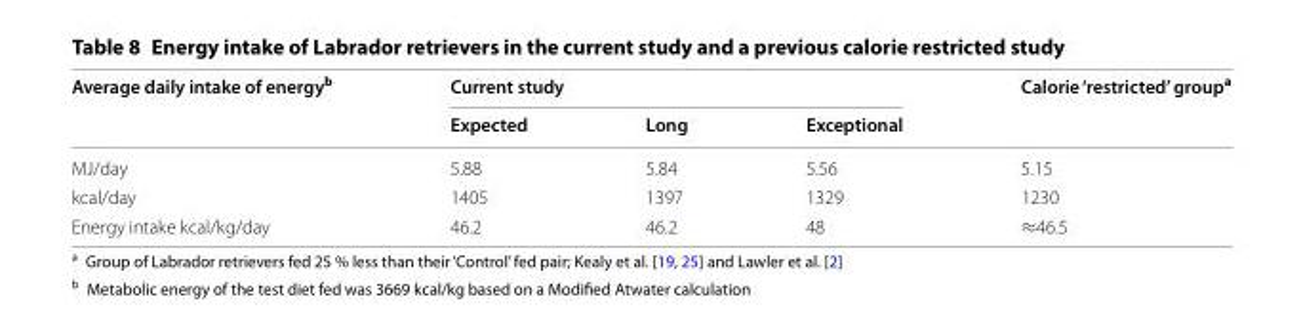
<table><thead><tr><td rowspan="2">Average daily intake of energy<sup>b</sup></td><td colspan="3">Current study</td><td rowspan="2">Calorie ‘restricted’ group<sup>a</sup></td></tr><tr><td>Expected</td><td>Long</td><td>Exceptional</td></tr></thead><tbody><tr><td>MJ/day</td><td>5.88</td><td>5.84</td><td>5.56</td><td>5.15</td></tr><tr><td>kcal/day</td><td>1405</td><td>1397</td><td>1329</td><td>1230</td></tr><tr><td>Energy intake kcal/kg/day</td><td>46.2</td><td>46.2</td><td>48</td><td>≈46.5</td></tr></tbody></table>